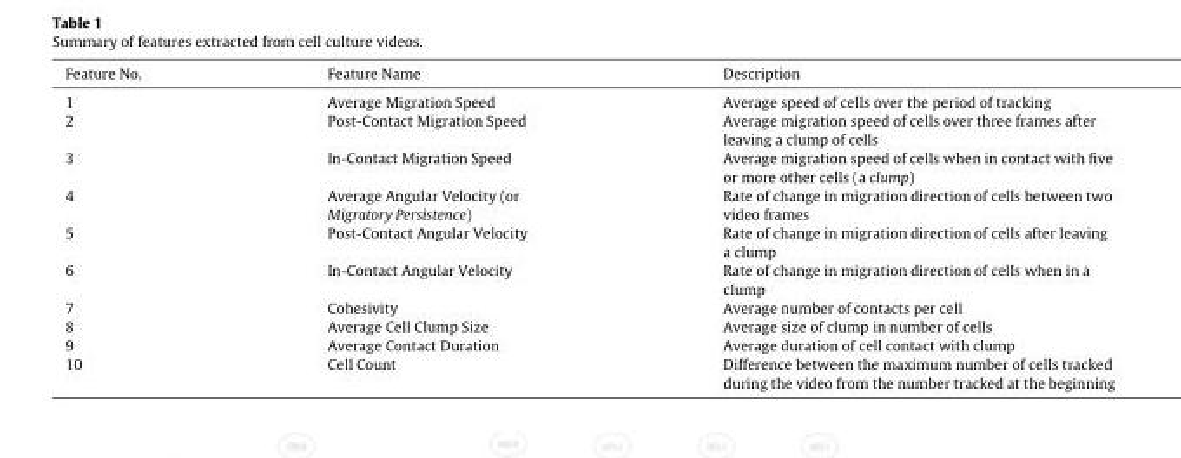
<table><thead><tr><td>Feature No.</td><td>Feature Name</td><td>Description</td></tr></thead><tbody><tr><td>1</td><td>Average Migration Speed</td><td>Average speed of cells over the period of tracking</td></tr><tr><td>2</td><td>Post-Contact Migration Speed</td><td>Average migration speed of cells over three frames after leaving a clump of cells</td></tr><tr><td>3</td><td>In-Contact Migration Speed</td><td>Average migration speed of cells when in contact with five or more other cells (a clump)</td></tr><tr><td>4</td><td>Average Angular Velocity (or Migratory Persistence)</td><td>Rate of change in migration direction of cells between two video frames</td></tr><tr><td>5</td><td>Post-Contact Angular Velocity</td><td>Rate of change in migration direction of cells after leaving a clump</td></tr><tr><td>6</td><td>In-Contact Angular Velocity</td><td>Rate of change in migration direction of cells when in a clump</td></tr><tr><td>7</td><td>Cohesivity</td><td>Average number of contacts per cell</td></tr><tr><td>8</td><td>Average Cell Clump Size</td><td>Average size of clump in number of cells</td></tr><tr><td>9</td><td>Average Contact Duration</td><td>Average duration of cell contact with clump</td></tr><tr><td>10</td><td>Cell Count</td><td>Difference between the maximum number of cells tracked during the video from the number tracked at the beginning</td></tr></tbody></table>